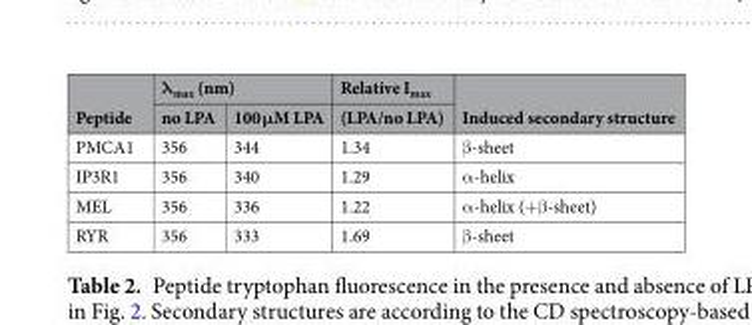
<table><thead><tr><td rowspan="2">Peptide</td><td colspan="2">λ<sub>max</sub> (nm)</td><td rowspan="2">Relative I<sub>max</sub> (LPA/no LPA)</td><td rowspan="2">Induced secondary structure</td></tr><tr><td>no LPA</td><td>100 μM LPA</td></tr></thead><tbody><tr><td>PMCA1</td><td>356</td><td>344</td><td>1.34</td><td>β-sheet</td></tr><tr><td>IP3R1</td><td>356</td><td>340</td><td>1.29</td><td>α-helix</td></tr><tr><td>MEL</td><td>356</td><td>336</td><td>1.22</td><td>α-helix (+β-sheet)</td></tr><tr><td>RYR</td><td>356</td><td>333</td><td>1.69</td><td>β-sheet</td></tr></tbody></table>